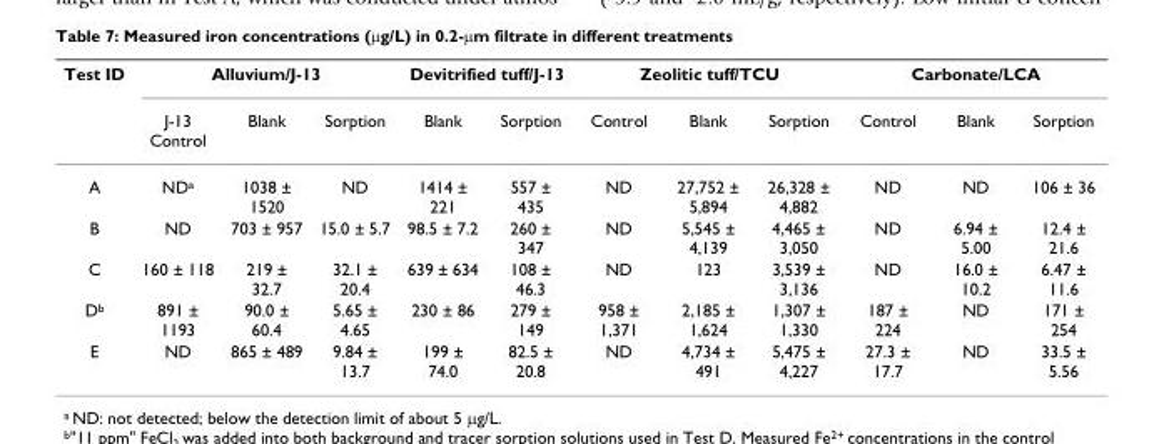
<table><thead><tr><td rowspan="2">Test ID</td><td colspan="3">Alluvium/J-13</td><td colspan="2">Devitrified tuff/J-13</td><td colspan="3">Zeolitic tuff/TCU</td><td colspan="3">Carbonate/LCA</td></tr><tr><td>J-13 Control</td><td>Blank</td><td>Sorption</td><td>Blank</td><td>Sorption</td><td>Control</td><td>Blank</td><td>Sorption</td><td>Control</td><td>Blank</td><td>Sorption</td></tr></thead><tbody><tr><td>A</td><td>ND<sup>a</sup></td><td>1038 ± 1520</td><td>ND</td><td>1414 ± 221</td><td>557 ± 435</td><td>ND</td><td>27,752 ± 5,894</td><td>26,328 ± 4,882</td><td>ND</td><td>ND</td><td>106 ± 36</td></tr><tr><td>B</td><td>ND</td><td>703 ± 957</td><td>15.0 ± 5.7</td><td>98.5 ± 7.2</td><td>260 ± 347</td><td>ND</td><td>5,545 ± 4,139</td><td>4,465 ± 3,050</td><td>ND</td><td>6.94 ± 5.00</td><td>12.4 ± 21.6</td></tr><tr><td>C</td><td>160 ± 118</td><td>219 ± 32.7</td><td>32.1 ± 20.4</td><td>639 ± 634</td><td>108 ± 46.3</td><td>ND</td><td>123</td><td>3,539 ± 3,136</td><td>ND</td><td>16.0 ± 10.2</td><td>6.47 ± 11.6</td></tr><tr><td>D<sup>b</sup></td><td>891 ± 1193</td><td>90.0 ± 60.4</td><td>5.65 ± 4.65</td><td>230 ± 86</td><td>279 ± 149</td><td>958 ± 1,371</td><td>2,185 ± 1,624</td><td>1,307 ± 1,330</td><td>187 ± 224</td><td>ND</td><td>171 ± 254</td></tr><tr><td>E</td><td>ND</td><td>865 ± 489</td><td>9.84 ± 13.7</td><td>199 ± 74.0</td><td>82.5 ± 20.8</td><td>ND</td><td>4,734 ± 491</td><td>5,475 ± 4,227</td><td>27.3 ± 17.7</td><td>ND</td><td>33.5 ± 5.56</td></tr></tbody></table>